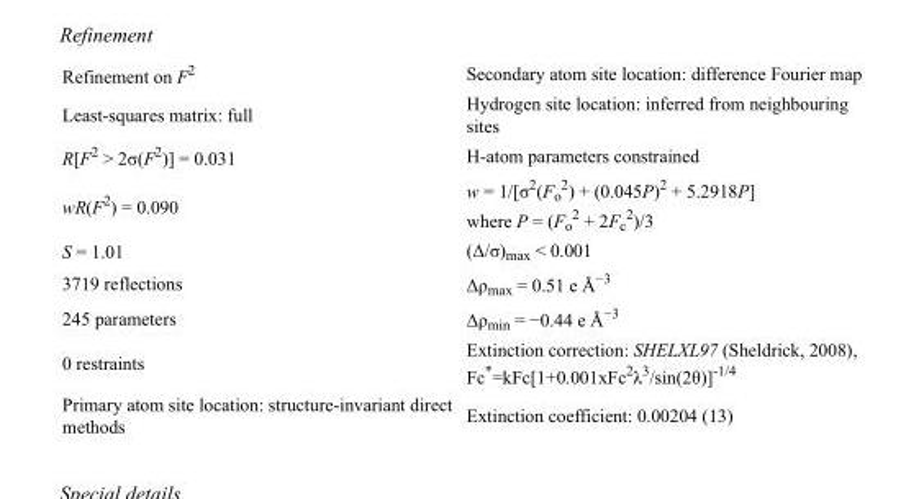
<table><tbody><tr><td>Refinement on F<sup>2</sup></td><td>Secondary atom site location: difference Fourier map</td></tr><tr><td>Least-squares matrix: full</td><td>Hydrogen site location: inferred from neighbouring sites</td></tr><tr><td>R[F<sup>2</sup> &gt; 2σ(F<sup>2</sup>)] = 0.031</td><td>H-atom parameters constrained</td></tr><tr><td>wR(F<sup>2</sup>) = 0.090</td><td>w = 1/[σ<sup>2</sup>(F<sub>o</sub> <sup>2</sup>) + (0.045P)<sup>2</sup> + 5.2918P] where P = (F<sub>o</sub> <sup>2</sup> + 2F<sub>c</sub> <sup>2</sup>)/3</td></tr><tr><td>S = 1.01</td><td>(Δ/σ)<sub>max</sub> &lt; 0.001</td></tr><tr><td>3719 reflections</td><td>Δρ<sub>max</sub> = 0.51 e Å<sup>−3</sup></td></tr><tr><td>245 parameters</td><td>Δρ<sub>min</sub> = −0.44 e Å<sup>−3</sup></td></tr><tr><td>0 restraints</td><td>Extinction correction: SHELXL97 (Sheldrick, 2008), Fc*=kFc[1+0.001xFc<sup>2</sup>λ<sup>3</sup>/sin(2θ)]<sup>-1/4</sup></td></tr><tr><td>Primary atom site location: structure-invariant direct methods</td><td>Extinction coefficient: 0.00204 (13)</td></tr></tbody></table>